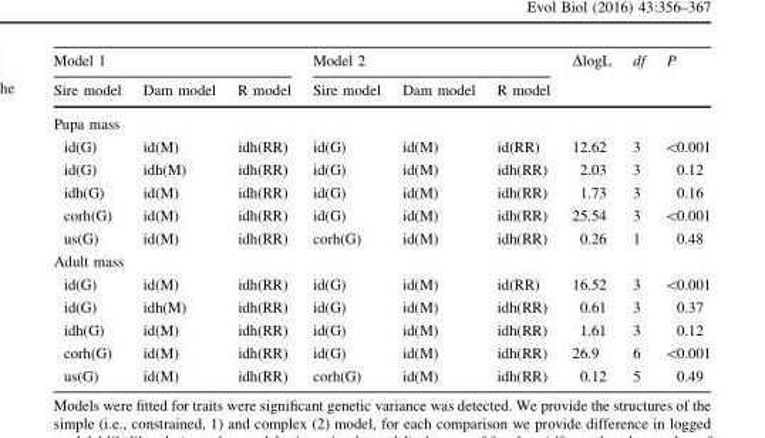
<table><thead><tr><td colspan="3">Model 1</td><td colspan="3">Model 2</td><td rowspan="2">ΔlogL</td><td rowspan="2">df</td><td rowspan="2">P</td></tr><tr><td>Sire model</td><td>Dam model</td><td>R model</td><td>Sire model</td><td>Dam model</td><td>R model</td></tr></thead><tbody><tr><td colspan="9">Pupa mass</td></tr><tr><td>id(G)</td><td>id(M)</td><td>idh(RR)</td><td>id(G)</td><td>id(M)</td><td>id(RR)</td><td>12.62</td><td>3</td><td>&lt;0.001</td></tr><tr><td>id(G)</td><td>idh(M)</td><td>idh(RR)</td><td>id(G)</td><td>id(M)</td><td>idh(RR)</td><td>2.03</td><td>3</td><td>0.12</td></tr><tr><td>idh(G)</td><td>id(M)</td><td>idh(RR)</td><td>id(G)</td><td>id(M)</td><td>idh(RR)</td><td>1.73</td><td>3</td><td>0.16</td></tr><tr><td>corh(G)</td><td>id(M)</td><td>idh(RR)</td><td>id(G)</td><td>id(M)</td><td>idh(RR)</td><td>25.54</td><td>3</td><td>&lt;0.001</td></tr><tr><td>us(G)</td><td>id(M)</td><td>idh(RR)</td><td>corh(G)</td><td>id(M)</td><td>idh(RR)</td><td>0.26</td><td>1</td><td>0.48</td></tr><tr><td colspan="9">Adult mass</td></tr><tr><td>id(G)</td><td>id(M)</td><td>idh(RR)</td><td>id(G)</td><td>id(M)</td><td>id(RR)</td><td>16.52</td><td>3</td><td>&lt;0.001</td></tr><tr><td>id(G)</td><td>idh(M)</td><td>idh(RR)</td><td>id(G)</td><td>id(M)</td><td>idh(RR)</td><td>0.61</td><td>3</td><td>0.37</td></tr><tr><td>idh(G)</td><td>id(M)</td><td>idh(RR)</td><td>id(G)</td><td>id(M)</td><td>idh(RR)</td><td>1.61</td><td>3</td><td>0.12</td></tr><tr><td>corh(G)</td><td>id(M)</td><td>idh(RR)</td><td>id(G)</td><td>id(M)</td><td>idh(RR)</td><td>26.9</td><td>6</td><td>&lt;0.001</td></tr><tr><td>us(G)</td><td>id(M)</td><td>idh(RR)</td><td>corh(G)</td><td>id(M)</td><td>idh(RR)</td><td>0.12</td><td>5</td><td>0.49</td></tr></tbody></table>